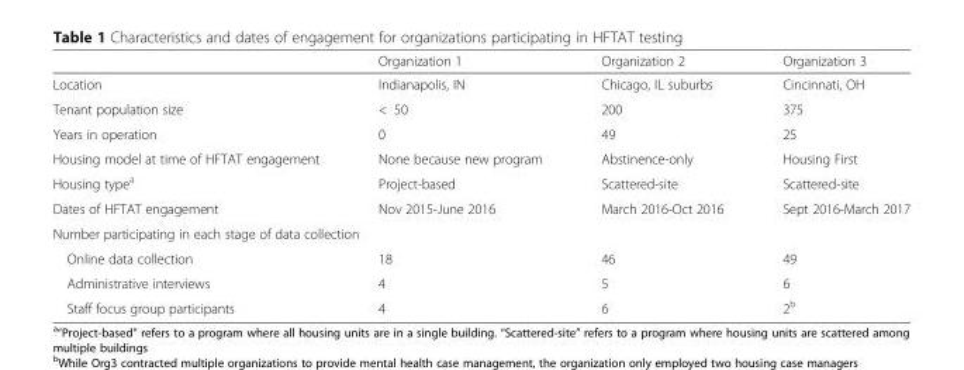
<table><thead><tr><td></td><td>Organization 1</td><td>Organization 2</td><td>Organization 3</td></tr></thead><tbody><tr><td>Location</td><td>Indianapolis, IN</td><td>Chicago, IL suburbs</td><td>Cincinnati, OH</td></tr><tr><td>Tenant population size</td><td>&lt; 50</td><td>200</td><td>375</td></tr><tr><td>Years in operation</td><td>0</td><td>49</td><td>25</td></tr><tr><td>Housing model at time of HFTAT engagement</td><td>None because new program</td><td>Abstinence-only</td><td>Housing First</td></tr><tr><td>Housing type<sup>a</sup></td><td>Project-based</td><td>Scattered-site</td><td>Scattered-site</td></tr><tr><td>Dates of HFTAT engagement</td><td>Nov 2015-June 2016</td><td>March 2016-Oct 2016</td><td>Sept 2016-March 2017</td></tr><tr><td colspan="4">Number participating in each stage of data collection</td></tr><tr><td>Online data collection</td><td>18</td><td>46</td><td>49</td></tr><tr><td>Administrative interviews</td><td>4</td><td>5</td><td>6</td></tr><tr><td>Staff focus group participants</td><td>4</td><td>6</td><td>2<sup>b</sup></td></tr></tbody></table>